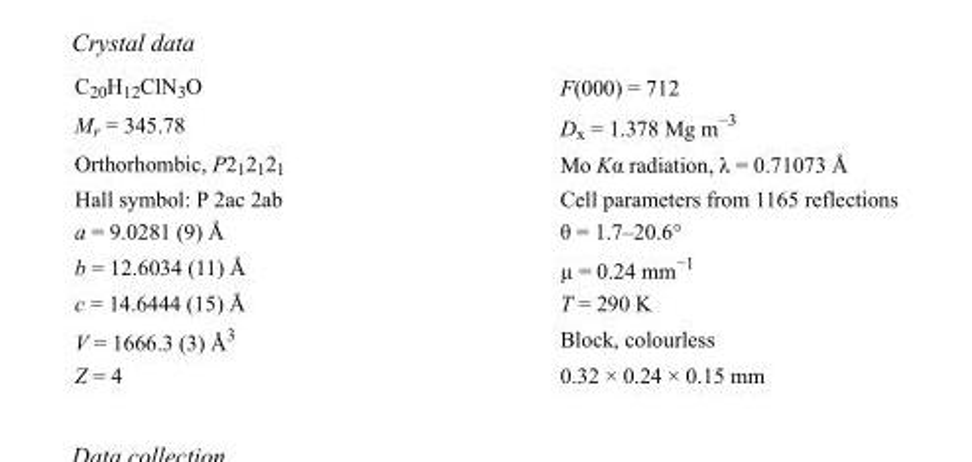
<table><tbody><tr><td>C<sub>20</sub>H<sub>12</sub>ClN<sub>3</sub>O</td><td>F(000) = 712</td></tr><tr><td>M<sub>r</sub> = 345.78</td><td>D<sub>x</sub> = 1.378 Mg m<sup>−3</sup></td></tr><tr><td>Orthorhombic, P2<sub>1</sub>2<sub>1</sub>2<sub>1</sub></td><td>Mo Kα radiation, λ = 0.71073 Å</td></tr><tr><td>Hall symbol: P 2ac 2ab</td><td>Cell parameters from 1165 reflections</td></tr><tr><td>a = 9.0281 (9) Å</td><td>θ = 1.7–20.6°</td></tr><tr><td>b = 12.6034 (11) Å</td><td>µ = 0.24 mm<sup>−1</sup></td></tr><tr><td>c = 14.6444 (15) Å</td><td>T = 290 K</td></tr><tr><td>V = 1666.3 (3) Å<sup>3</sup></td><td>Block, colourless</td></tr><tr><td>Z = 4</td><td>0.32 × 0.24 × 0.15 mm</td></tr></tbody></table>